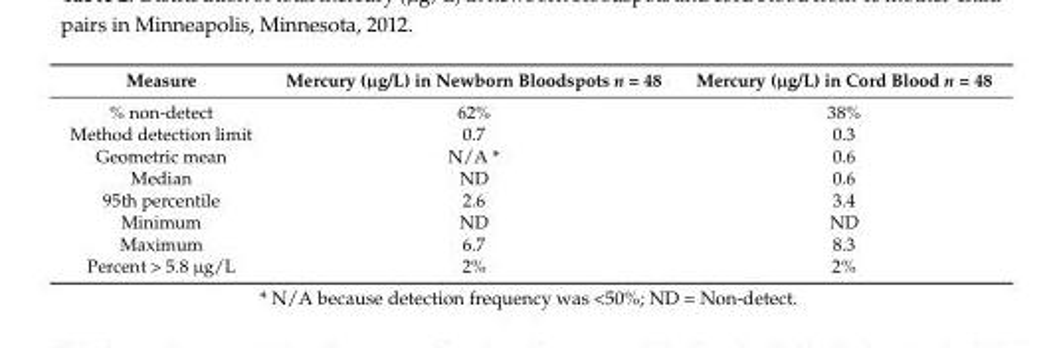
<table><thead><tr><td>Measure</td><td>Mercury (µg/L) in Newborn Bloodspots n = 48</td><td>Mercury (µg/L) in Cord Blood n = 48</td></tr></thead><tbody><tr><td>% non-detect</td><td>62%</td><td>38%</td></tr><tr><td>Method detection limit</td><td>0.7</td><td>0.3</td></tr><tr><td>Geometric mean</td><td>N/A *</td><td>0.6</td></tr><tr><td>Median</td><td>ND</td><td>0.6</td></tr><tr><td>95th percentile</td><td>2.6</td><td>3.4</td></tr><tr><td>Minimum</td><td>ND</td><td>ND</td></tr><tr><td>Maximum</td><td>6.7</td><td>8.3</td></tr><tr><td>Percent &gt; 5.8 µg/L</td><td>2%</td><td>2%</td></tr></tbody></table>